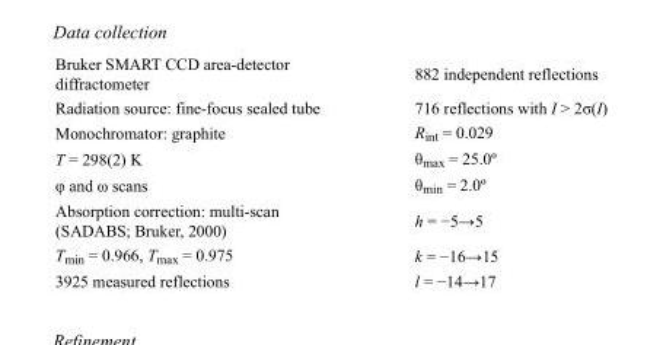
<table><tbody><tr><td>Bruker SMART CCD area-detector diffractometer</td><td>882 independent reflections</td></tr><tr><td>Radiation source: fine-focus sealed tube</td><td>716 reflections with I &gt; 2σ(I)</td></tr><tr><td>Monochromator: graphite</td><td>R<sub>int</sub> = 0.029</td></tr><tr><td>T = 298(2) K</td><td>θ<sub>max</sub> = 25.0º</td></tr><tr><td>φ and ω scans</td><td>θ<sub>min</sub> = 2.0º</td></tr><tr><td>Absorption correction: multi-scan (SADABS; Bruker, 2000)</td><td>h = −5→5</td></tr><tr><td>T<sub>min</sub> = 0.966, T<sub>max</sub> = 0.975</td><td>k = −16→15</td></tr><tr><td>3925 measured reflections</td><td>l = −14→17</td></tr></tbody></table>